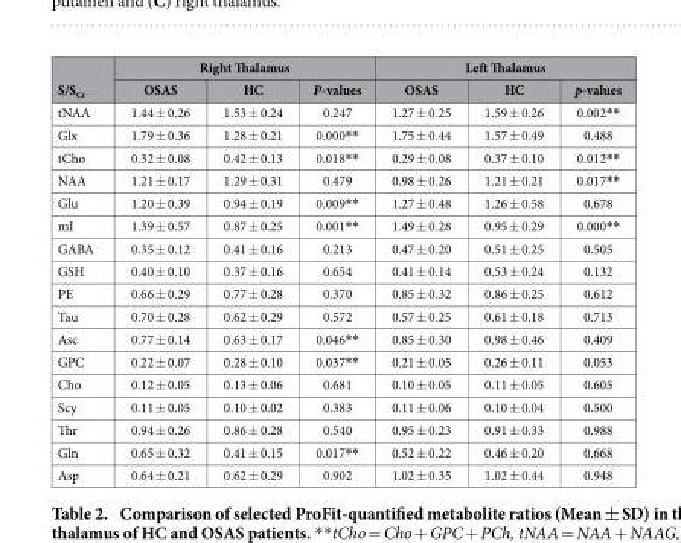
<table><thead><tr><td rowspan="2">S/S<sub>Cr</sub></td><td colspan="3">Right Thalamus</td><td colspan="3">Left Thalamus</td></tr><tr><td>OSAS</td><td>HC</td><td>P-values</td><td>OSAS</td><td>HC</td><td>p-values</td></tr></thead><tbody><tr><td>tNAA</td><td>1.44 ± 0.26</td><td>1.53 ± 0.24</td><td>0.247</td><td>1.27 ± 0.25</td><td>1.59 ± 0.26</td><td>0.002**</td></tr><tr><td>Glx</td><td>1.79 ± 0.36</td><td>1.28 ± 0.21</td><td>0.000**</td><td>1.75 ± 0.44</td><td>1.57 ± 0.49</td><td>0.488</td></tr><tr><td>tCho</td><td>0.32 ± 0.08</td><td>0.42 ± 0.13</td><td>0.018**</td><td>0.29 ± 0.08</td><td>0.37 ± 0.10</td><td>0.012**</td></tr><tr><td>NAA</td><td>1.21 ± 0.17</td><td>1.29 ± 0.31</td><td>0.479</td><td>0.98 ± 0.26</td><td>1.21 ± 0.21</td><td>0.017**</td></tr><tr><td>Glu</td><td>1.20 ± 0.39</td><td>0.94 ± 0.19</td><td>0.009**</td><td>1.27 ± 0.48</td><td>1.26 ± 0.58</td><td>0.678</td></tr><tr><td>mI</td><td>1.39 ± 0.57</td><td>0.87 ± 0.25</td><td>0.001**</td><td>1.49 ± 0.28</td><td>0.95 ± 0.29</td><td>0.000**</td></tr><tr><td>GABA</td><td>0.35 ± 0.12</td><td>0.41 ± 0.16</td><td>0.213</td><td>0.47 ± 0.20</td><td>0.51 ± 0.25</td><td>0.505</td></tr><tr><td>GSH</td><td>0.40 ± 0.10</td><td>0.37 ± 0.16</td><td>0.654</td><td>0.41 ± 0.14</td><td>0.53 ± 0.24</td><td>0.132</td></tr><tr><td>PE</td><td>0.66 ± 0.29</td><td>0.77 ± 0.28</td><td>0.370</td><td>0.85 ± 0.32</td><td>0.86 ± 0.25</td><td>0.612</td></tr><tr><td>Tau</td><td>0.70 ± 0.28</td><td>0.62 ± 0.29</td><td>0.572</td><td>0.57 ± 0.25</td><td>0.61 ± 0.18</td><td>0.713</td></tr><tr><td>Asc</td><td>0.77 ± 0.14</td><td>0.63 ± 0.17</td><td>0.046**</td><td>0.85 ± 0.30</td><td>0.98 ± 0.46</td><td>0.409</td></tr><tr><td>GPC</td><td>0.22 ± 0.07</td><td>0.28 ± 0.10</td><td>0.037**</td><td>0.21 ± 0.05</td><td>0.26 ± 0.11</td><td>0.053</td></tr><tr><td>Cho</td><td>0.12 ± 0.05</td><td>0.13 ± 0.06</td><td>0.681</td><td>0.10 ± 0.05</td><td>0.11 ± 0.05</td><td>0.605</td></tr><tr><td>Scy</td><td>0.11 ± 0.05</td><td>0.10 ± 0.02</td><td>0.383</td><td>0.11 ± 0.06</td><td>0.10 ± 0.04</td><td>0.500</td></tr><tr><td>Thr</td><td>0.94 ± 0.26</td><td>0.86 ± 0.28</td><td>0.540</td><td>0.95 ± 0.23</td><td>0.91 ± 0.33</td><td>0.988</td></tr><tr><td>Gln</td><td>0.65 ± 0.32</td><td>0.41 ± 0.15</td><td>0.017**</td><td>0.52 ± 0.22</td><td>0.46 ± 0.20</td><td>0.668</td></tr><tr><td>Asp</td><td>0.64 ± 0.21</td><td>0.62 ± 0.29</td><td>0.902</td><td>1.02 ± 0.35</td><td>1.02 ± 0.44</td><td>0.948</td></tr></tbody></table>